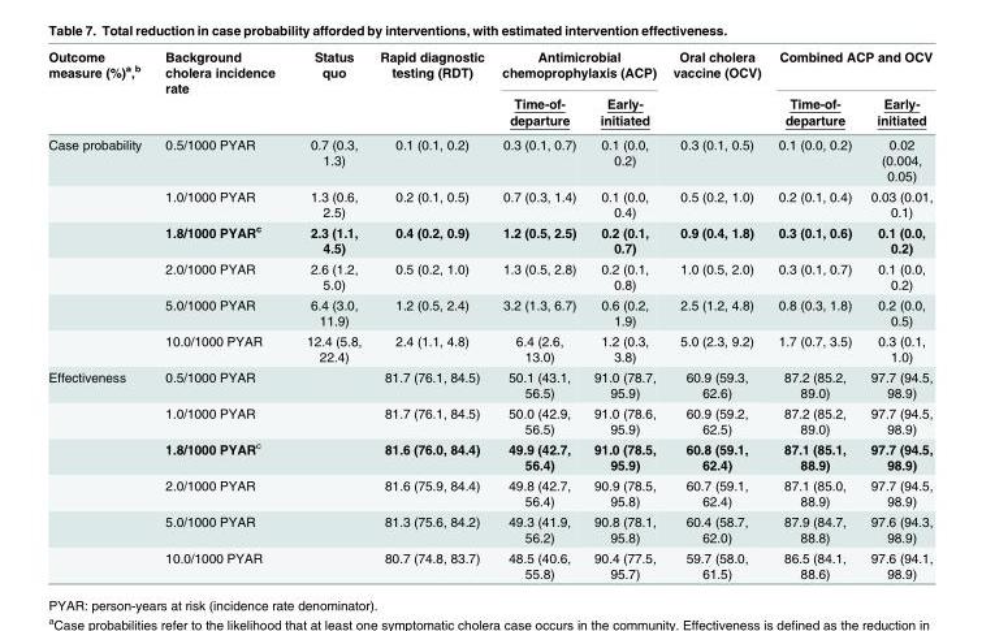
<table><thead><tr><td rowspan="2">Outcome measure (%)<sup>a</sup>,<sup>b</sup></td><td rowspan="2">Background cholera incidence rate</td><td rowspan="2">Status quo</td><td rowspan="2">Rapid diagnostic testing (RDT)</td><td colspan="2">Antimicrobial chemoprophylaxis (ACP)</td><td rowspan="2">Oral cholera vaccine (OCV)</td><td colspan="2">Combined ACP and OCV</td></tr><tr><td>Time-of- departure</td><td>Early- initiated</td><td>Time-of- departure</td><td>Early- initiated</td></tr></thead><tbody><tr><td rowspan="6">Case probability</td><td>0.5/1000 PYAR</td><td>0.7 (0.3, 1.3)</td><td>0.1 (0.1, 0.2)</td><td>0.3 (0.1, 0.7)</td><td>0.1 (0.0, 0.2)</td><td>0.3 (0.1, 0.5)</td><td>0.1 (0.0, 0.2)</td><td>0.02 (0.004, 0.05)</td></tr><tr><td>1.0/1000 PYAR</td><td>1.3 (0.6, 2.5)</td><td>0.2 (0.1, 0.5)</td><td>0.7 (0.3, 1.4)</td><td>0.1 (0.0, 0.4)</td><td>0.5 (0.2, 1.0)</td><td>0.2 (0.1, 0.4)</td><td>0.03 (0.01, 0.1)</td></tr><tr><td>1.8/1000 PYAR<sup>c</sup></td><td>2.3 (1.1, 4.5)</td><td>0.4 (0.2, 0.9)</td><td>1.2 (0.5, 2.5)</td><td>0.2 (0.1, 0.7)</td><td>0.9 (0.4, 1.8)</td><td>0.3 (0.1, 0.6)</td><td>0.1 (0.0, 0.2)</td></tr><tr><td>2.0/1000 PYAR</td><td>2.6 (1.2, 5.0)</td><td>0.5 (0.2, 1.0)</td><td>1.3 (0.5, 2.8)</td><td>0.2 (0.1, 0.8)</td><td>1.0 (0.5, 2.0)</td><td>0.3 (0.1, 0.7)</td><td>0.1 (0.0, 0.2)</td></tr><tr><td>5.0/1000 PYAR</td><td>6.4 (3.0, 11.9)</td><td>1.2 (0.5, 2.4)</td><td>3.2 (1.3, 6.7)</td><td>0.6 (0.2, 1.9)</td><td>2.5 (1.2, 4.8)</td><td>0.8 (0.3, 1.8)</td><td>0.2 (0.0, 0.5)</td></tr><tr><td>10.0/1000 PYAR</td><td>12.4 (5.8, 22.4)</td><td>2.4 (1.1, 4.8)</td><td>6.4 (2.6, 13.0)</td><td>1.2 (0.3, 3.8)</td><td>5.0 (2.3, 9.2)</td><td>1.7 (0.7, 3.5)</td><td>0.3 (0.1, 1.0)</td></tr><tr><td rowspan="6">Effectiveness</td><td>0.5/1000 PYAR</td><td></td><td>81.7 (76.1, 84.5)</td><td>50.1 (43.1, 56.5)</td><td>91.0 (78.7, 95.9)</td><td>60.9 (59.3, 62.6)</td><td>87.2 (85.2, 89.0)</td><td>97.7 (94.5, 98.9)</td></tr><tr><td>1.0/1000 PYAR</td><td></td><td>81.7 (76.1, 84.5)</td><td>50.0 (42.9, 56.5)</td><td>91.0 (78.6, 95.9)</td><td>60.9 (59.2, 62.5)</td><td>87.2 (85.2, 89.0)</td><td>97.7 (94.5, 98.9)</td></tr><tr><td>1.8/1000 PYAR<sup>c</sup></td><td></td><td>81.6 (76.0, 84.4)</td><td>49.9 (42.7, 56.4)</td><td>91.0 (78.5, 95.9)</td><td>60.8 (59.1, 62.4)</td><td>87.1 (85.1, 88.9)</td><td>97.7 (94.5, 98.9)</td></tr><tr><td>2.0/1000 PYAR</td><td></td><td>81.6 (75.9, 84.4)</td><td>49.8 (42.7, 56.4)</td><td>90.9 (78.5, 95.8)</td><td>60.7 (59.1, 62.4)</td><td>87.1 (85.0, 88.9)</td><td>97.7 (94.5, 98.9)</td></tr><tr><td>5.0/1000 PYAR</td><td></td><td>81.3 (75.6, 84.2)</td><td>49.3 (41.9, 56.2)</td><td>90.8 (78.1, 95.8)</td><td>60.4 (58.7, 62.0)</td><td>87.9 (84.7, 88.8)</td><td>97.6 (94.3, 98.9)</td></tr><tr><td>10.0/1000 PYAR</td><td></td><td>80.7 (74.8, 83.7)</td><td>48.5 (40.6, 55.8)</td><td>90.4 (77.5, 95.7)</td><td>59.7 (58.0, 61.5)</td><td>86.5 (84.1, 88.6)</td><td>97.6 (94.1, 98.9)</td></tr></tbody></table>